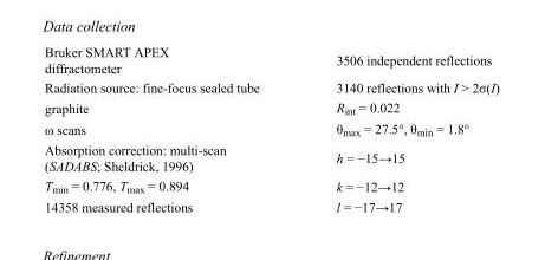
<table><tbody><tr><td>Bruker SMART APEX diffractometer</td><td>3506 independent reflections</td></tr><tr><td>Radiation source: fine-focus sealed tube</td><td>3140 reflections with I &gt; 2σ(I)</td></tr><tr><td>graphite</td><td>R<sub>int</sub> = 0.022</td></tr><tr><td>ω scans</td><td>θ<sub>max</sub> = 27.5°, θ<sub>min</sub> = 1.8°</td></tr><tr><td>Absorption correction: multi-scan (SADABS; Sheldrick, 1996)</td><td>h = −15→15</td></tr><tr><td>T<sub>min</sub> = 0.776, T<sub>max</sub> = 0.894</td><td>k = −12→12</td></tr><tr><td>14358 measured reflections</td><td>l = −17→17</td></tr></tbody></table>